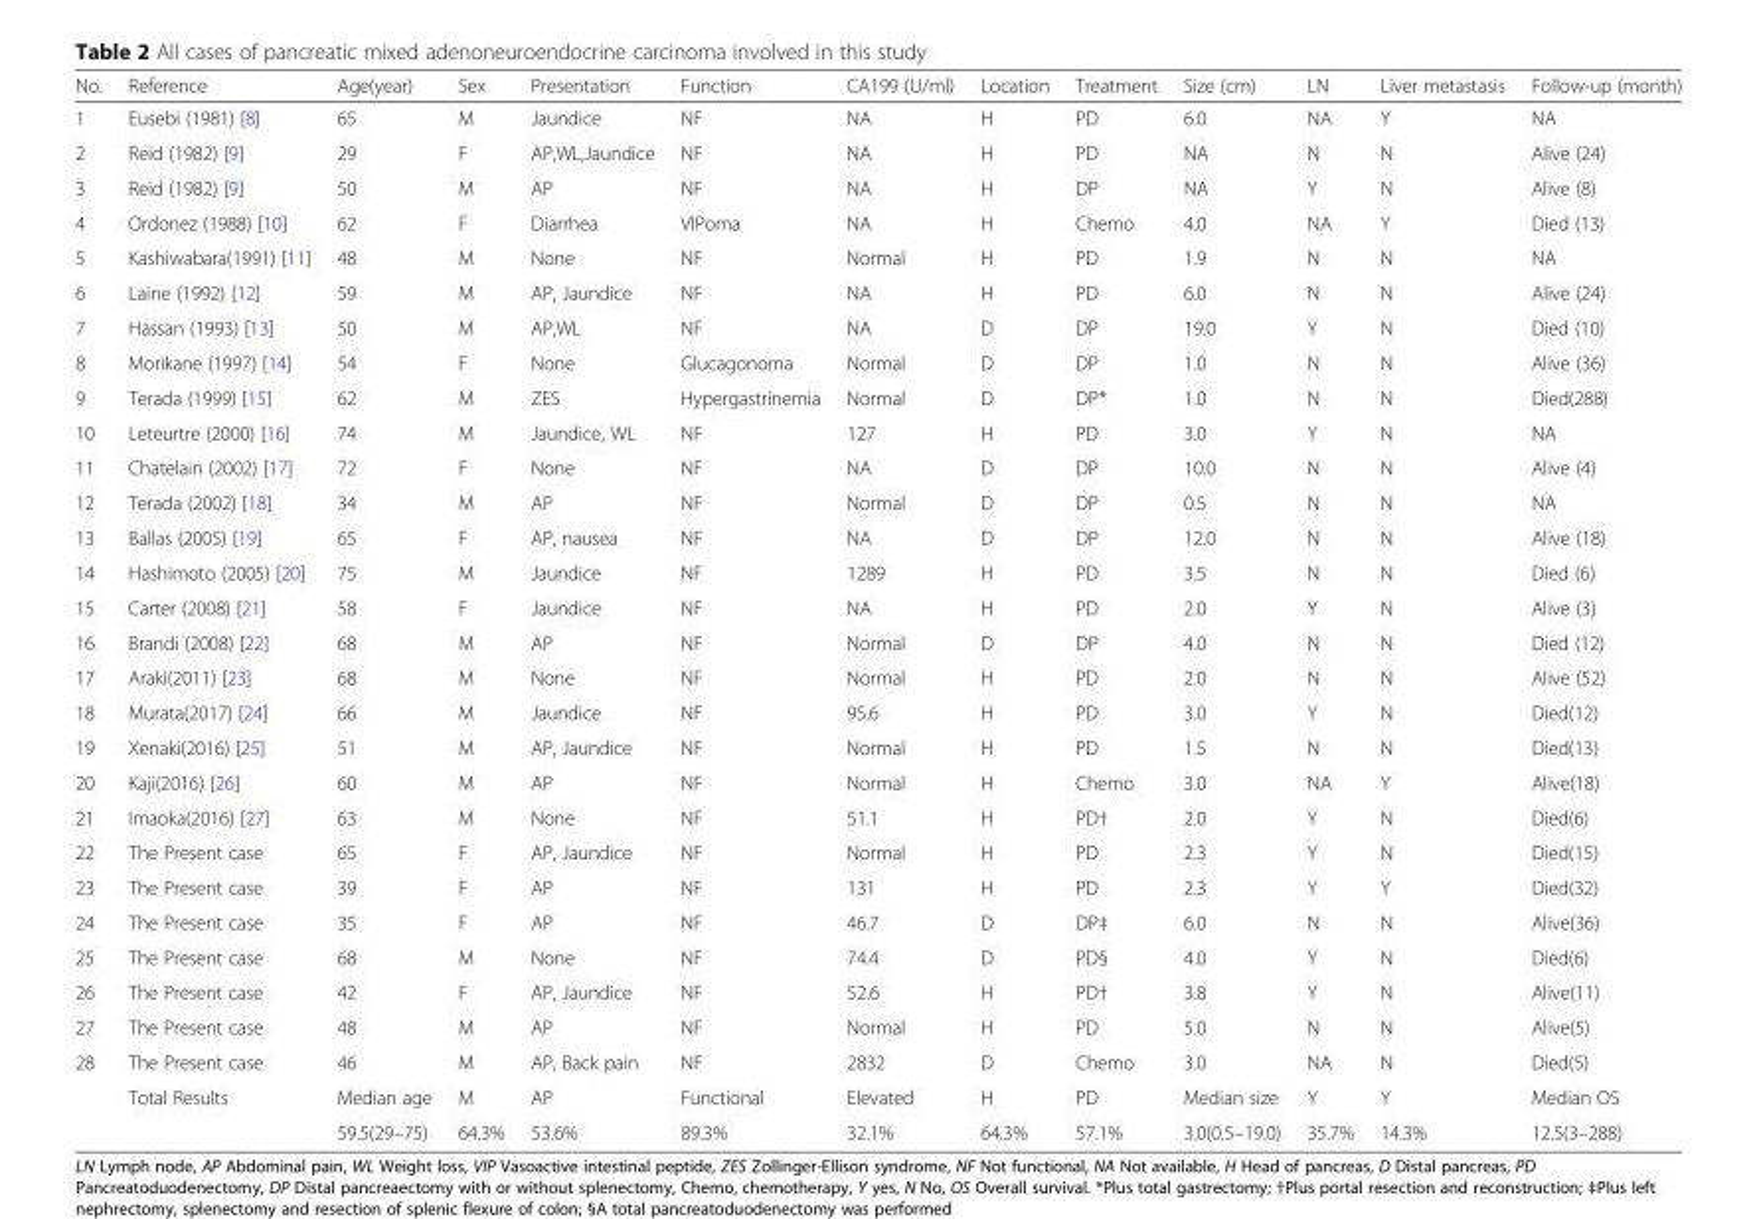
<table><thead><tr><td>No.</td><td>Reference</td><td>Age(year)</td><td>Sex</td><td>Presentation</td><td>Function</td><td>CA199 (U/ml)</td><td>Location</td><td>Treatment</td><td>Size (cm)</td><td>LN</td><td>Liver metastasis</td><td>Follow-up (month)</td></tr></thead><tbody><tr><td>1</td><td>Eusebi (1981) [8]</td><td>65</td><td>M</td><td>Jaundice</td><td>NF</td><td>NA</td><td>H</td><td>PD</td><td>6.0</td><td>NA</td><td>Y</td><td>NA</td></tr><tr><td>2</td><td>Reid (1982) [9]</td><td>29</td><td>F</td><td>AP,WL,Jaundice</td><td>NF</td><td>NA</td><td>H</td><td>PD</td><td>NA</td><td>N</td><td>N</td><td>Alive (24)</td></tr><tr><td>3</td><td>Reid (1982) [9]</td><td>50</td><td>M</td><td>AP</td><td>NF</td><td>NA</td><td>H</td><td>DP</td><td>NA</td><td>Y</td><td>N</td><td>Alive (8)</td></tr><tr><td>4</td><td>Ordonez (1988) [10]</td><td>62</td><td>F</td><td>Diarrhea</td><td>VIPoma</td><td>NA</td><td>H</td><td>Chemo</td><td>4.0</td><td>NA</td><td>Y</td><td>Died (13)</td></tr><tr><td>5</td><td>Kashiwabara(1991) [11]</td><td>48</td><td>M</td><td>None</td><td>NF</td><td>Normal</td><td>H</td><td>PD</td><td>1.9</td><td>N</td><td>N</td><td>NA</td></tr><tr><td>6</td><td>Laine (1992) [12]</td><td>59</td><td>M</td><td>AP, Jaundice</td><td>NF</td><td>NA</td><td>H</td><td>PD</td><td>6.0</td><td>N</td><td>N</td><td>Alive (24)</td></tr><tr><td>7</td><td>Hassan (1993) [13]</td><td>50</td><td>M</td><td>AP,WL</td><td>NF</td><td>NA</td><td>D</td><td>DP</td><td>19.0</td><td>Y</td><td>N</td><td>Died (10)</td></tr><tr><td>8</td><td>Morikane (1997) [14]</td><td>54</td><td>F</td><td>None</td><td>Glucagonoma</td><td>Normal</td><td>D</td><td>DP</td><td>1.0</td><td>N</td><td>N</td><td>Alive (36)</td></tr><tr><td>9</td><td>Terada (1999) [15]</td><td>62</td><td>M</td><td>ZES</td><td>Hypergastrinemia</td><td>Normal</td><td>D</td><td>DP*</td><td>1.0</td><td>N</td><td>N</td><td>Died(288)</td></tr><tr><td>10</td><td>Leteurtre (2000) [16]</td><td>74</td><td>M</td><td>Jaundice, WL</td><td>NF</td><td>127</td><td>H</td><td>PD</td><td>3.0</td><td>Y</td><td>N</td><td>NA</td></tr><tr><td>11</td><td>Chatelain (2002) [17]</td><td>72</td><td>F</td><td>None</td><td>NF</td><td>NA</td><td>D</td><td>DP</td><td>10.0</td><td>N</td><td>N</td><td>Alive (4)</td></tr><tr><td>12</td><td>Terada (2002) [18]</td><td>34</td><td>M</td><td>AP</td><td>NF</td><td>Normal</td><td>D</td><td>DP</td><td>0.5</td><td>N</td><td>N</td><td>NA</td></tr><tr><td>13</td><td>Ballas (2005) [19]</td><td>65</td><td>F</td><td>AP, nausea</td><td>NF</td><td>NA</td><td>D</td><td>DP</td><td>12.0</td><td>N</td><td>N</td><td>Alive (18)</td></tr><tr><td>14</td><td>Hashimoto (2005) [20]</td><td>75</td><td>M</td><td>Jaundice</td><td>NF</td><td>1289</td><td>H</td><td>PD</td><td>3.5</td><td>N</td><td>N</td><td>Died (6)</td></tr><tr><td>15</td><td>Carter (2008) [21]</td><td>58</td><td>F</td><td>Jaundice</td><td>NF</td><td>NA</td><td>H</td><td>PD</td><td>2.0</td><td>Y</td><td>N</td><td>Alive (3)</td></tr><tr><td>16</td><td>Brandi (2008) [22]</td><td>68</td><td>M</td><td>AP</td><td>NF</td><td>Normal</td><td>D</td><td>DP</td><td>4.0</td><td>N</td><td>N</td><td>Died (12)</td></tr><tr><td>17</td><td>Araki(2011) [23]</td><td>68</td><td>M</td><td>None</td><td>NF</td><td>Normal</td><td>H</td><td>PD</td><td>2.0</td><td>N</td><td>N</td><td>Alive (52)</td></tr><tr><td>18</td><td>Murata(2017) [24]</td><td>66</td><td>M</td><td>Jaundice</td><td>NF</td><td>95.6</td><td>H</td><td>PD</td><td>3.0</td><td>Y</td><td>N</td><td>Died(12)</td></tr><tr><td>19</td><td>Xenaki(2016) [25]</td><td>51</td><td>M</td><td>AP, Jaundice</td><td>NF</td><td>Normal</td><td>H</td><td>PD</td><td>1.5</td><td>N</td><td>N</td><td>Died(13)</td></tr><tr><td>20</td><td>Kaji(2016) [26]</td><td>60</td><td>M</td><td>AP</td><td>NF</td><td>Normal</td><td>H</td><td>Chemo</td><td>3.0</td><td>NA</td><td>Y</td><td>Alive(18)</td></tr><tr><td>21</td><td>Imaoka(2016) [27]</td><td>63</td><td>M</td><td>None</td><td>NF</td><td>51.1</td><td>H</td><td>PD†</td><td>2.0</td><td>Y</td><td>N</td><td>Died(6)</td></tr><tr><td>22</td><td>The Present case</td><td>65</td><td>F</td><td>AP, Jaundice</td><td>NF</td><td>Normal</td><td>H</td><td>PD</td><td>2.3</td><td>Y</td><td>N</td><td>Died(15)</td></tr><tr><td>23</td><td>The Present case</td><td>39</td><td>F</td><td>AP</td><td>NF</td><td>131</td><td>H</td><td>PD</td><td>2.3</td><td>Y</td><td>Y</td><td>Died(32)</td></tr><tr><td>24</td><td>The Present case</td><td>35</td><td>F</td><td>AP</td><td>NF</td><td>46.7</td><td>D</td><td>DP‡</td><td>6.0</td><td>N</td><td>N</td><td>Alive(36)</td></tr><tr><td>25</td><td>The Present case</td><td>68</td><td>M</td><td>None</td><td>NF</td><td>74.4</td><td>D</td><td>PD§</td><td>4.0</td><td>Y</td><td>N</td><td>Died(6)</td></tr><tr><td>26</td><td>The Present case</td><td>42</td><td>F</td><td>AP, Jaundice</td><td>NF</td><td>52.6</td><td>H</td><td>PD†</td><td>3.8</td><td>Y</td><td>N</td><td>Alive(11)</td></tr><tr><td>27</td><td>The Present case</td><td>48</td><td>M</td><td>AP</td><td>NF</td><td>Normal</td><td>H</td><td>PD</td><td>5.0</td><td>N</td><td>N</td><td>Alive(5)</td></tr><tr><td rowspan="3">28</td><td>The Present case</td><td>46</td><td>M</td><td>AP, Back pain</td><td>NF</td><td>2832</td><td>D</td><td>Chemo</td><td>3.0</td><td>NA</td><td>N</td><td>Died(5)</td></tr><tr><td rowspan="2">Total Results</td><td>Median age</td><td>M</td><td>AP</td><td>Functional</td><td>Elevated</td><td>H</td><td>PD</td><td>Median size</td><td>Y</td><td>Y</td><td>Median OS</td></tr><tr><td>59.5(29–75)</td><td>64.3%</td><td>53.6%</td><td>89.3%</td><td>32.1%</td><td>64.3%</td><td>57.1%</td><td>3.0(0.5–19.0)</td><td>35.7%</td><td>14.3%</td><td>12.5(3–288)</td></tr></tbody></table>